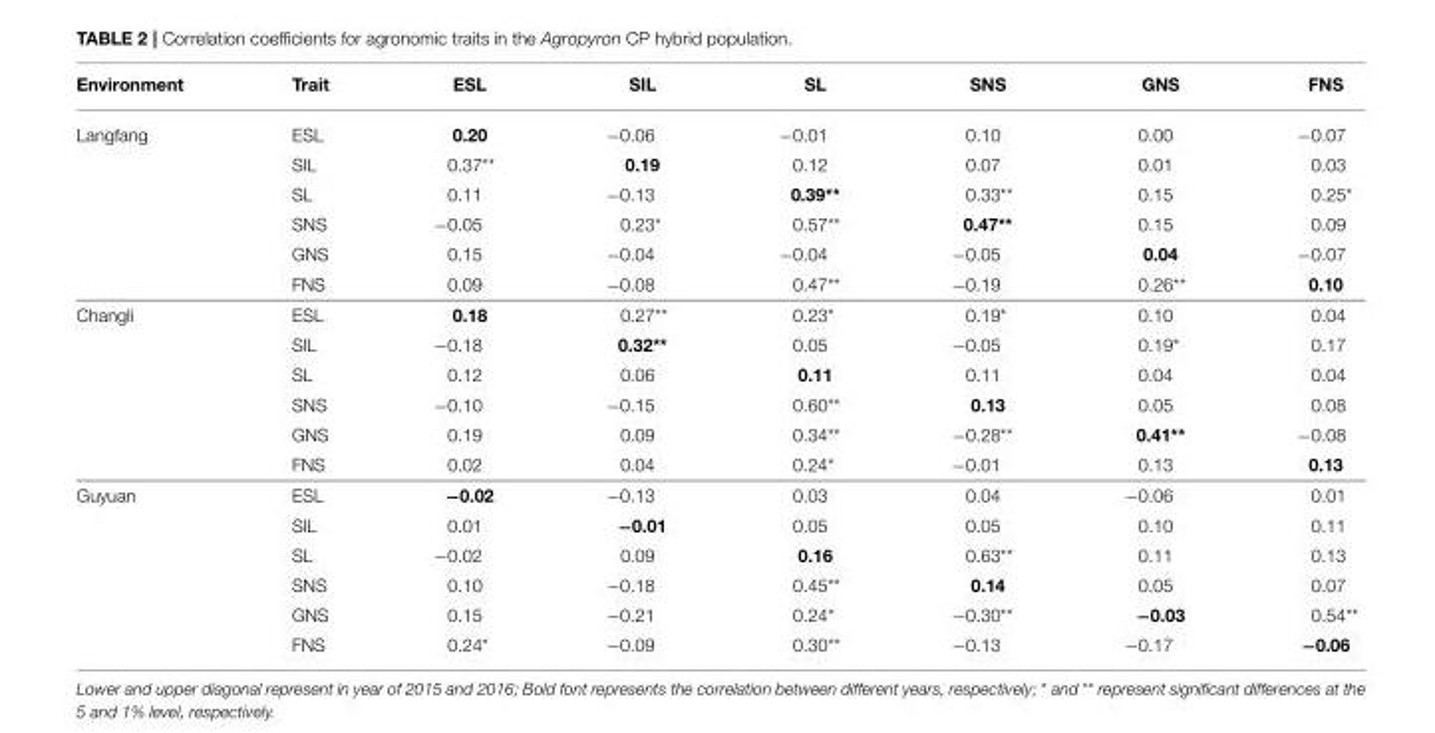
<table><thead><tr><td>Environment</td><td>Trait</td><td>ESL</td><td>SIL</td><td>SL</td><td>SNS</td><td>GNS</td><td>FNS</td></tr></thead><tbody><tr><td rowspan="6">Langfang</td><td>ESL</td><td>0.20</td><td>−0.06</td><td>−0.01</td><td>0.10</td><td>0.00</td><td>−0.07</td></tr><tr><td>SIL</td><td>0.37**</td><td>0.19</td><td>0.12</td><td>0.07</td><td>0.01</td><td>0.03</td></tr><tr><td>SL</td><td>0.11</td><td>−0.13</td><td>0.39**</td><td>0.33**</td><td>0.15</td><td>0.25*</td></tr><tr><td>SNS</td><td>−0.05</td><td>0.23*</td><td>0.57**</td><td>0.47**</td><td>0.15</td><td>0.09</td></tr><tr><td>GNS</td><td>0.15</td><td>−0.04</td><td>−0.04</td><td>−0.05</td><td>0.04</td><td>−0.07</td></tr><tr><td>FNS</td><td>0.09</td><td>−0.08</td><td>0.47**</td><td>−0.19</td><td>0.26**</td><td>0.10</td></tr><tr><td rowspan="6">Changli</td><td>ESL</td><td>0.18</td><td>0.27**</td><td>0.23*</td><td>0.19*</td><td>0.10</td><td>0.04</td></tr><tr><td>SIL</td><td>−0.18</td><td>0.32**</td><td>0.05</td><td>−0.05</td><td>0.19*</td><td>0.17</td></tr><tr><td>SL</td><td>0.12</td><td>0.06</td><td>0.11</td><td>0.11</td><td>0.04</td><td>0.04</td></tr><tr><td>SNS</td><td>−0.10</td><td>−0.15</td><td>0.60**</td><td>0.13</td><td>0.05</td><td>0.08</td></tr><tr><td>GNS</td><td>0.19</td><td>0.09</td><td>0.34**</td><td>−0.28**</td><td>0.41**</td><td>−0.08</td></tr><tr><td>FNS</td><td>0.02</td><td>0.04</td><td>0.24*</td><td>−0.01</td><td>0.13</td><td>0.13</td></tr><tr><td rowspan="6">Guyuan</td><td>ESL</td><td>−0.02</td><td>−0.13</td><td>0.03</td><td>0.04</td><td>−0.06</td><td>0.01</td></tr><tr><td>SIL</td><td>0.01</td><td>−0.01</td><td>0.05</td><td>0.05</td><td>0.10</td><td>0.11</td></tr><tr><td>SL</td><td>−0.02</td><td>0.09</td><td>0.16</td><td>0.63**</td><td>0.11</td><td>0.13</td></tr><tr><td>SNS</td><td>0.10</td><td>−0.18</td><td>0.45**</td><td>0.14</td><td>0.05</td><td>0.07</td></tr><tr><td>GNS</td><td>0.15</td><td>−0.21</td><td>0.24*</td><td>−0.30**</td><td>−0.03</td><td>0.54**</td></tr><tr><td>FNS</td><td>0.24*</td><td>−0.09</td><td>0.30**</td><td>−0.13</td><td>−0.17</td><td>−0.06</td></tr></tbody></table>